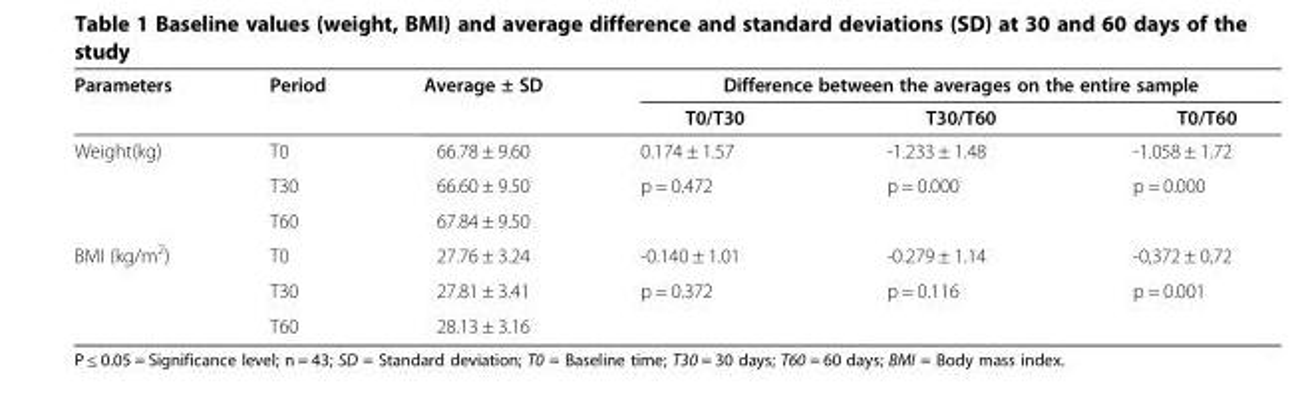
<table><thead><tr><td rowspan="2">Parameters</td><td rowspan="2">Period</td><td rowspan="2">Average ± SD</td><td colspan="3">Difference between the averages on the entire sample</td></tr><tr><td>T0/T30</td><td>T30/T60</td><td>T0/T60</td></tr></thead><tbody><tr><td rowspan="3">Weight(kg)</td><td>T0</td><td>66.78 ± 9.60</td><td>0.174 ± 1.57</td><td>-1.233 ± 1.48</td><td>-1.058 ± 1.72</td></tr><tr><td>T30</td><td>66.60 ± 9.50</td><td rowspan="2">p = 0.472</td><td rowspan="2">p = 0.000</td><td rowspan="2">p = 0.000</td></tr><tr><td>T60</td><td>67.84 ± 9.50</td></tr><tr><td rowspan="3">BMI (kg/m<sup>2</sup>)</td><td>T0</td><td>27.76 ± 3.24</td><td>-0.140 ± 1.01</td><td>-0.279 ± 1.14</td><td>-0,372 ± 0,72</td></tr><tr><td>T30</td><td>27.81 ± 3.41</td><td>p = 0.372</td><td>p = 0.116</td><td>p = 0.001</td></tr><tr><td>T60</td><td>28.13 ± 3.16</td><td></td><td></td><td></td></tr></tbody></table>